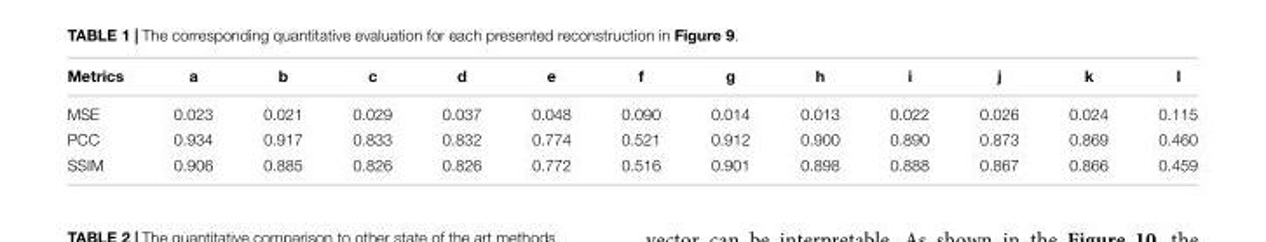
<table><thead><tr><td>Metrics</td><td>a</td><td>b</td><td>c</td><td>d</td><td>e</td><td>f</td><td>g</td><td>h</td><td>i</td><td>j</td><td>k</td><td>l</td></tr></thead><tbody><tr><td>MSE</td><td>0.023</td><td>0.021</td><td>0.029</td><td>0.037</td><td>0.048</td><td>0.090</td><td>0.014</td><td>0.013</td><td>0.022</td><td>0.026</td><td>0.024</td><td>0.115</td></tr><tr><td>PCC</td><td>0.934</td><td>0.917</td><td>0.833</td><td>0.832</td><td>0.774</td><td>0.521</td><td>0.912</td><td>0.900</td><td>0.890</td><td>0.873</td><td>0.869</td><td>0.460</td></tr><tr><td>SSIM</td><td>0.906</td><td>0.885</td><td>0.826</td><td>0.826</td><td>0.772</td><td>0.516</td><td>0.901</td><td>0.898</td><td>0.888</td><td>0.867</td><td>0.866</td><td>0.459</td></tr></tbody></table>